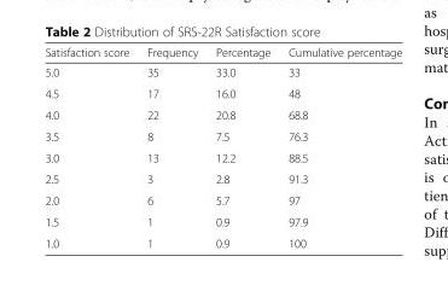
<table><thead><tr><td>Satisfaction score</td><td>Frequency</td><td>Percentage</td><td>Cumulative percentage</td></tr></thead><tbody><tr><td>5.0</td><td>35</td><td>33.0</td><td>33</td></tr><tr><td>4.5</td><td>17</td><td>16.0</td><td>48</td></tr><tr><td>4.0</td><td>22</td><td>20.8</td><td>68.8</td></tr><tr><td>3.5</td><td>8</td><td>7.5</td><td>76.3</td></tr><tr><td>3.0</td><td>13</td><td>12.2</td><td>88.5</td></tr><tr><td>2.5</td><td>3</td><td>2.8</td><td>91.3</td></tr><tr><td>2.0</td><td>6</td><td>5.7</td><td>97</td></tr><tr><td>1.5</td><td>1</td><td>0.9</td><td>97.9</td></tr><tr><td>1.0</td><td>1</td><td>0.9</td><td>100</td></tr></tbody></table>